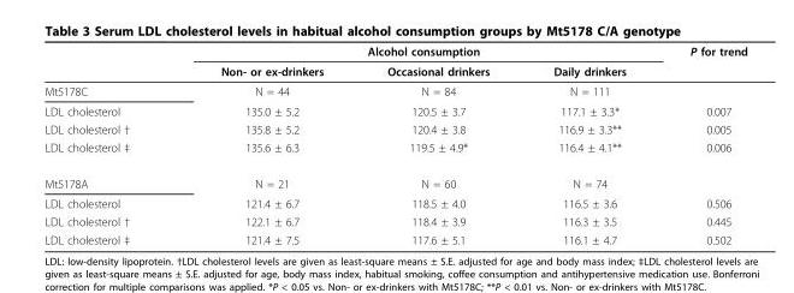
<table><thead><tr><td rowspan="2"></td><td colspan="3">Alcohol consumption</td><td rowspan="2">P for trend</td></tr><tr><td>Non- or ex-drinkers</td><td>Occasional drinkers</td><td>Daily drinkers</td></tr></thead><tbody><tr><td>Mt5178C</td><td>N = 44</td><td>N = 84</td><td>N = 111</td><td></td></tr><tr><td>LDL cholesterol</td><td>135.0 ± 5.2</td><td>120.5 ± 3.7</td><td>117.1 ± 3.3*</td><td>0.007</td></tr><tr><td>LDL cholesterol †</td><td>135.8 ± 5.2</td><td>120.4 ± 3.8</td><td>116.9 ± 3.3**</td><td>0.005</td></tr><tr><td>LDL cholesterol ‡</td><td>135.6 ± 6.3</td><td>119.5 ± 4.9*</td><td>116.4 ± 4.1**</td><td>0.006</td></tr><tr><td>Mt5178A</td><td>N = 21</td><td>N = 60</td><td>N = 74</td><td></td></tr><tr><td>LDL cholesterol</td><td>121.4 ± 6.7</td><td>118.5 ± 4.0</td><td>116.5 ± 3.6</td><td>0.506</td></tr><tr><td>LDL cholesterol †</td><td>122.1 ± 6.7</td><td>118.4 ± 3.9</td><td>116.3 ± 3.5</td><td>0.445</td></tr><tr><td>LDL cholesterol ‡</td><td>121.4 ± 7.5</td><td>117.6 ± 5.1</td><td>116.1 ± 4.7</td><td>0.502</td></tr></tbody></table>